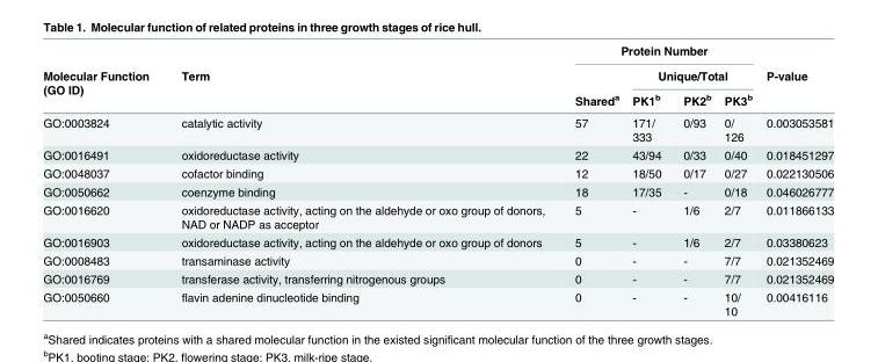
<table><thead><tr><td rowspan="3">Molecular Function (GO ID)</td><td rowspan="3">Term</td><td colspan="4">Protein Number</td><td rowspan="3">P-value</td></tr><tr><td rowspan="2">Shared<sup>a</sup></td><td colspan="3">Unique/Total</td></tr><tr><td>PK1<sup>b</sup></td><td>PK2<sup>b</sup></td><td>PK3<sup>b</sup></td></tr></thead><tbody><tr><td>GO:0003824</td><td>catalytic activity</td><td>57</td><td>171/ 333</td><td>0/93</td><td>0/ 126</td><td>0.003053581</td></tr><tr><td>GO:0016491</td><td>oxidoreductase activity</td><td>22</td><td>43/94</td><td>0/33</td><td>0/40</td><td>0.018451297</td></tr><tr><td>GO:0048037</td><td>cofactor binding</td><td>12</td><td>18/50</td><td>0/17</td><td>0/27</td><td>0.022130506</td></tr><tr><td>GO:0050662</td><td>coenzyme binding</td><td>18</td><td>17/35</td><td>-</td><td>0/18</td><td>0.046026777</td></tr><tr><td>GO:0016620</td><td>oxidoreductase activity, acting on the aldehyde or oxo group of donors, NAD or NADP as acceptor</td><td>5</td><td>-</td><td>1/6</td><td>2/7</td><td>0.011866133</td></tr><tr><td>GO:0016903</td><td>oxidoreductase activity, acting on the aldehyde or oxo group of donors</td><td>5</td><td>-</td><td>1/6</td><td>2/7</td><td>0.03380623</td></tr><tr><td>GO:0008483</td><td>transaminase activity</td><td>0</td><td>-</td><td>-</td><td>7/7</td><td>0.021352469</td></tr><tr><td>GO:0016769</td><td>transferase activity, transferring nitrogenous groups</td><td>0</td><td>-</td><td>-</td><td>7/7</td><td>0.021352469</td></tr><tr><td>GO:0050660</td><td>flavin adenine dinucleotide binding</td><td>0</td><td>-</td><td>-</td><td>10/ 10</td><td>0.00416116</td></tr></tbody></table>